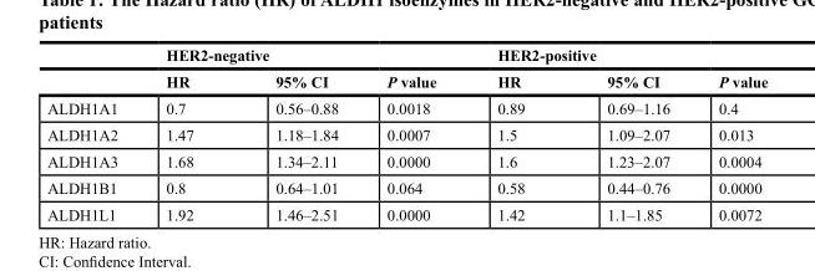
<table><thead><tr><td rowspan="2"></td><td colspan="3">HER2-negative</td><td colspan="3">HER2-positive</td></tr><tr><td>HR</td><td>95% CI</td><td>P value</td><td>HR</td><td>95% CI</td><td>P value</td></tr></thead><tbody><tr><td>ALDH1A1</td><td>0.7</td><td>0.56–0.88</td><td>0.0018</td><td>0.89</td><td>0.69–1.16</td><td>0.4</td></tr><tr><td>ALDH1A2</td><td>1.47</td><td>1.18–1.84</td><td>0.0007</td><td>1.5</td><td>1.09–2.07</td><td>0.013</td></tr><tr><td>ALDH1A3</td><td>1.68</td><td>1.34–2.11</td><td>0.0000</td><td>1.6</td><td>1.23–2.07</td><td>0.0004</td></tr><tr><td>ALDH1B1</td><td>0.8</td><td>0.64–1.01</td><td>0.064</td><td>0.58</td><td>0.44–0.76</td><td>0.0000</td></tr><tr><td>ALDH1L1</td><td>1.92</td><td>1.46–2.51</td><td>0.0000</td><td>1.42</td><td>1.1–1.85</td><td>0.0072</td></tr></tbody></table>